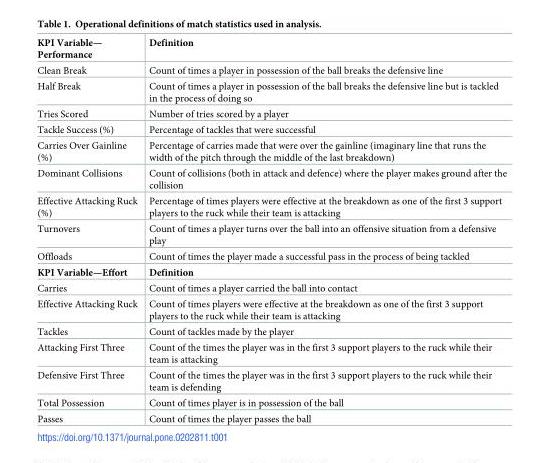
<table><tbody><tr><td>KPI Variable— Performance</td><td>Definition</td></tr><tr><td>Clean Break</td><td>Count of times a player in possession of the ball breaks the defensive line</td></tr><tr><td>Half Break</td><td>Count of times a player in possession of the ball breaks the defensive line but is tackled in the process of doing so</td></tr><tr><td>Tries Scored</td><td>Number of tries scored by a player</td></tr><tr><td>Tackle Success (%)</td><td>Percentage of tackles that were successful</td></tr><tr><td>Carries Over Gainline (%)</td><td>Percentage of carries made that were over the gainline (imaginary line that runs the width of the pitch through the middle of the last breakdown)</td></tr><tr><td>Dominant Collisions</td><td>Count of collisions (both in attack and defence) where the player makes ground after the collision</td></tr><tr><td>Effective Attacking Ruck (%)</td><td>Percentage of times players were effective at the breakdown as one of the first 3 support players to the ruck while their team is attacking</td></tr><tr><td>Turnovers</td><td>Count of times a player turns over the ball into an offensive situation from a defensive play</td></tr><tr><td>Offloads</td><td>Count of times the player made a successful pass in the process of being tackled</td></tr><tr><td>KPI Variable—Effort</td><td>Definition</td></tr><tr><td>Carries</td><td>Count of times a player carried the ball into contact</td></tr><tr><td>Effective Attacking Ruck</td><td>Count of times players were effective at the breakdown as one of the first 3 support players to the ruck while their team is attacking</td></tr><tr><td>Tackles</td><td>Count of tackles made by the player</td></tr><tr><td>Attacking First Three</td><td>Count of the times the player was in the first 3 support players to the ruck while their team is attacking</td></tr><tr><td>Defensive First Three</td><td>Count of the times the player was in the first 3 support players to the ruck while their team is defending</td></tr><tr><td>Total Possession</td><td>Count of times player is in possession of the ball</td></tr><tr><td>Passes</td><td>Count of times the player passes the ball</td></tr></tbody></table>